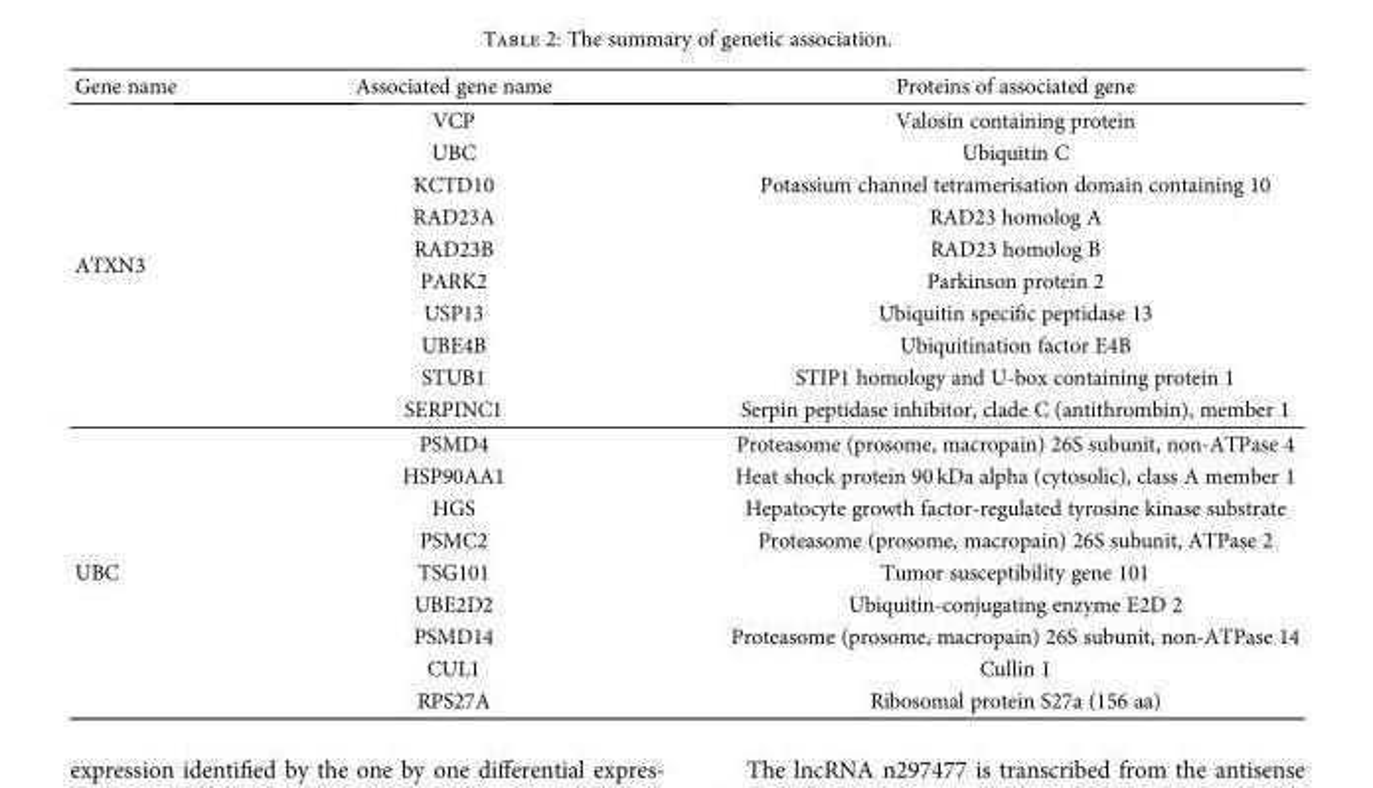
<table><thead><tr><td>Gene name</td><td>Associated gene name</td><td>Proteins of associated gene</td></tr></thead><tbody><tr><td rowspan="10">ATXN3</td><td>VCP</td><td>Valosin containing protein</td></tr><tr><td>UBC</td><td>Ubiquitin C</td></tr><tr><td>KCTD10</td><td>Potassium channel tetramerisation domain containing 10</td></tr><tr><td>RAD23A</td><td>RAD23 homolog A</td></tr><tr><td>RAD23B</td><td>RAD23 homolog B</td></tr><tr><td>PARK2</td><td>Parkinson protein 2</td></tr><tr><td>USP13</td><td>Ubiquitin specific peptidase 13</td></tr><tr><td>UBE4B</td><td>Ubiquitination factor E4B</td></tr><tr><td>STUB1</td><td>STIP1 homology and U-box containing protein 1</td></tr><tr><td>SERPINC1</td><td>Serpin peptidase inhibitor, clade C (antithrombin), member 1</td></tr><tr><td rowspan="9">UBC</td><td>PSMD4</td><td>Proteasome (prosome, macropain) 26S subunit, non-ATPase 4</td></tr><tr><td>HSP90AA1</td><td>Heat shock protein 90 kDa alpha (cytosolic), class A member 1</td></tr><tr><td>HGS</td><td>Hepatocyte growth factor-regulated tyrosine kinase substrate</td></tr><tr><td>PSMC2</td><td>Proteasome (prosome, macropain) 26S subunit, ATPase 2</td></tr><tr><td>TSG101</td><td>Tumor susceptibility gene 101</td></tr><tr><td>UBE2D2</td><td>Ubiquitin-conjugating enzyme E2D 2</td></tr><tr><td>PSMD14</td><td>Proteasome (prosome, macropain) 26S subunit, non-ATPase 14</td></tr><tr><td>CUL1</td><td>Cullin 1</td></tr><tr><td>RPS27A</td><td>Ribosomal protein S27a (156 aa)</td></tr></tbody></table>